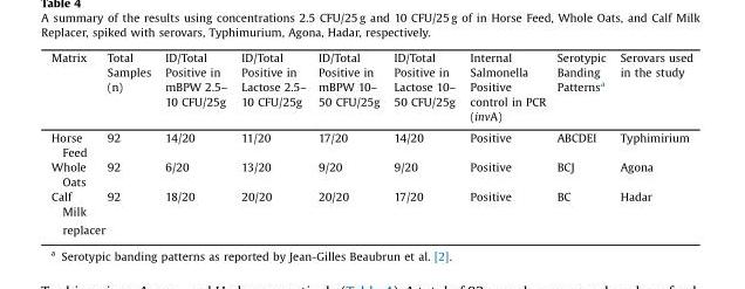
<table><thead><tr><td>Matrix</td><td>Total Samples (n)</td><td>ID/Total Positive in mBPW 2.5– 10 CFU/25g</td><td>ID/Total Positive in Lactose 2.5– 10 CFU/25g</td><td>ID/Total Positive in mBPW 10– 50 CFU/25g</td><td>ID/Total Positive in Lactose 10– 50 CFU/25g</td><td>Internal Salmonella Positive control in PCR (invA)</td><td>Serotypic Banding Patterns<sup>a</sup></td><td>Serovars used in the study</td></tr></thead><tbody><tr><td>Horse Feed</td><td>92</td><td>14/20</td><td>11/20</td><td>17/20</td><td>14/20</td><td>Positive</td><td>ABCDEI</td><td>Typhimirium</td></tr><tr><td>Whole Oats</td><td>92</td><td>6/20</td><td>13/20</td><td>9/20</td><td>9/20</td><td>Positive</td><td>BCJ</td><td>Agona</td></tr><tr><td>Calf Milk replacer</td><td>92</td><td>18/20</td><td>20/20</td><td>20/20</td><td>17/20</td><td>Positive</td><td>BC</td><td>Hadar</td></tr></tbody></table>